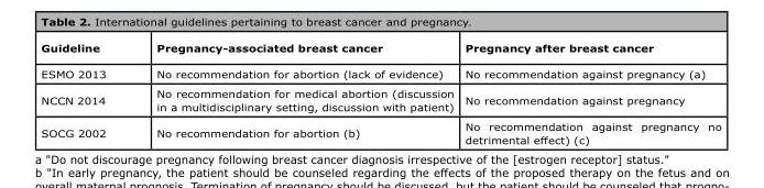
<table><thead><tr><td>Guideline</td><td>Pregnancy-associated breast cancer</td><td>Pregnancy after breast cancer</td></tr></thead><tbody><tr><td>ESMO 2013</td><td>No recommendation for abortion (lack of evidence)</td><td>No recommendation against pregnancy (a)</td></tr><tr><td>NCCN 2014</td><td>No recommendation for medical abortion (discussion in a multidisciplinary setting, discussion with patient)</td><td>No recommendation against pregnancy</td></tr><tr><td>SOCG 2002</td><td>No recommendation for abortion (b)</td><td>No recommendation against pregnancy no detrimental effect) (c)</td></tr></tbody></table>